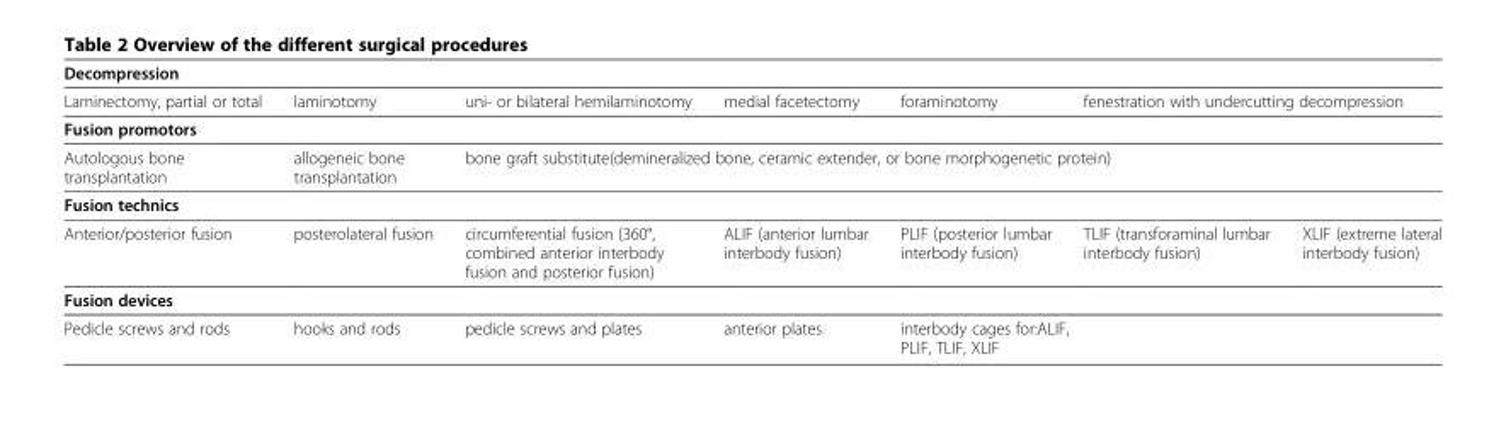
<table><thead><tr><td colspan="7">Decompression</td></tr></thead><tbody><tr><td>Laminectomy, partial or total</td><td>laminotomy</td><td>uni- or bilateral hemilaminotomy</td><td>medial facetectomy</td><td>foraminotomy</td><td colspan="2">fenestration with undercutting decompression</td></tr><tr><td colspan="7">Fusion promotors</td></tr><tr><td>Autologous bone transplantation</td><td>allogeneic bone transplantation</td><td colspan="5">bone graft substitute(demineralized bone, ceramic extender, or bone morphogenetic protein)</td></tr><tr><td colspan="7">Fusion technics</td></tr><tr><td>Anterior/posterior fusion</td><td>posterolateral fusion</td><td>circumferential fusion (360°, combined anterior interbody fusion and posterior fusion)</td><td>ALIF (anterior lumbar interbody fusion)</td><td>PLIF (posterior lumbar interbody fusion)</td><td>TLIF (transforaminal lumbar interbody fusion)</td><td>XLIF (extreme lateral interbody fusion)</td></tr><tr><td colspan="7">Fusion devices</td></tr><tr><td>Pedicle screws and rods</td><td>hooks and rods</td><td>pedicle screws and plates</td><td>anterior plates</td><td colspan="3">interbody cages for:ALIF, PLIF, TLIF, XLIF</td></tr></tbody></table>